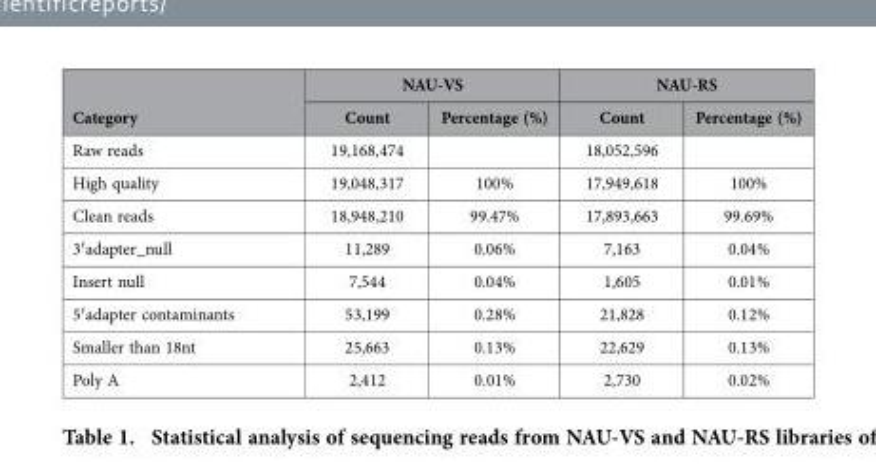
<table><thead><tr><td rowspan="2">Category</td><td colspan="2">NAU-VS</td><td colspan="2">NAU-RS</td></tr><tr><td>Count</td><td>Percentage (%)</td><td>Count</td><td>Percentage (%)</td></tr></thead><tbody><tr><td>Raw reads</td><td>19,168,474</td><td></td><td>18,052,596</td><td></td></tr><tr><td>High quality</td><td>19,048,317</td><td>100%</td><td>17,949,618</td><td>100%</td></tr><tr><td>Clean reads</td><td>18,948,210</td><td>99.47%</td><td>17,893,663</td><td>99.69%</td></tr><tr><td>3′ adapter_null</td><td>11,289</td><td>0.06%</td><td>7,163</td><td>0.04%</td></tr><tr><td>Insert null</td><td>7,544</td><td>0.04%</td><td>1,605</td><td>0.01%</td></tr><tr><td>5′ adapter contaminants</td><td>53,199</td><td>0.28%</td><td>21,828</td><td>0.12%</td></tr><tr><td>Smaller than 18nt</td><td>25,663</td><td>0.13%</td><td>22,629</td><td>0.13%</td></tr><tr><td>Poly A</td><td>2,412</td><td>0.01%</td><td>2,730</td><td>0.02%</td></tr></tbody></table>